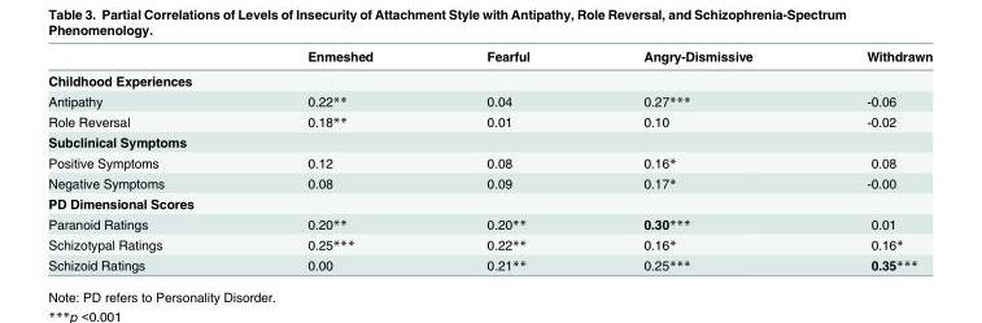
<table><thead><tr><td></td><td>Enmeshed</td><td>Fearful</td><td>Angry-Dismissive</td><td>Withdrawn</td></tr></thead><tbody><tr><td colspan="5">Childhood Experiences</td></tr><tr><td>Antipathy</td><td>0.22**</td><td>0.04</td><td>0.27***</td><td>-0.06</td></tr><tr><td>Role Reversal</td><td>0.18**</td><td>0.01</td><td>0.10</td><td>-0.02</td></tr><tr><td colspan="5">Subclinical Symptoms</td></tr><tr><td>Positive Symptoms</td><td>0.12</td><td>0.08</td><td>0.16*</td><td>0.08</td></tr><tr><td>Negative Symptoms</td><td>0.08</td><td>0.09</td><td>0.17*</td><td>-0.00</td></tr><tr><td colspan="5">PD Dimensional Scores</td></tr><tr><td>Paranoid Ratings</td><td>0.20**</td><td>0.20**</td><td>0.30***</td><td>0.01</td></tr><tr><td>Schizotypal Ratings</td><td>0.25***</td><td>0.22**</td><td>0.16*</td><td>0.16*</td></tr><tr><td>Schizoid Ratings</td><td>0.00</td><td>0.21**</td><td>0.25***</td><td>0.35***</td></tr></tbody></table>